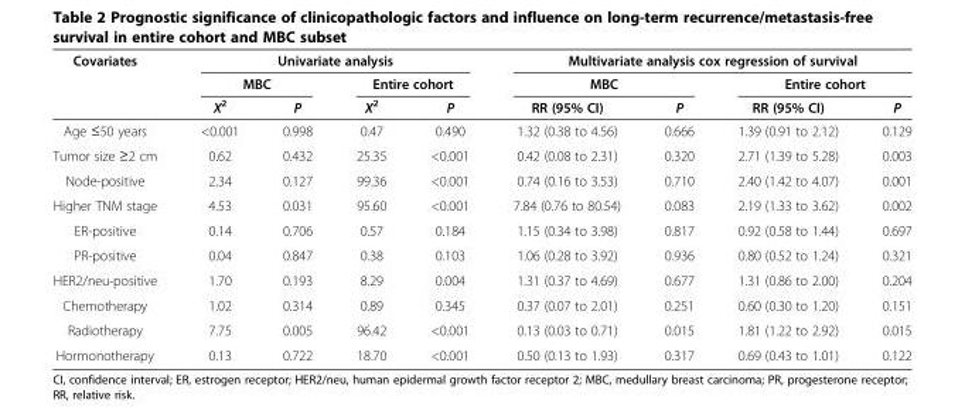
<table><thead><tr><td rowspan="3">Covariates</td><td colspan="4">Univariate analysis</td><td colspan="4">Multivariate analysis cox regression of survival</td></tr><tr><td colspan="2">MBC</td><td colspan="2">Entire cohort</td><td colspan="2">MBC</td><td colspan="2">Entire cohort</td></tr><tr><td>Χ<sup>2</sup></td><td>P</td><td>Χ<sup>2</sup></td><td>P</td><td>RR (95% CI)</td><td>P</td><td>RR (95% CI)</td><td>P</td></tr></thead><tbody><tr><td>Age ≤50 years</td><td>&lt;0.001</td><td>0.998</td><td>0.47</td><td>0.490</td><td>1.32 (0.38 to 4.56)</td><td>0.666</td><td>1.39 (0.91 to 2.12)</td><td>0.129</td></tr><tr><td>Tumor size ≥2 cm</td><td>0.62</td><td>0.432</td><td>25.35</td><td>&lt;0.001</td><td>0.42 (0.08 to 2.31)</td><td>0.320</td><td>2.71 (1.39 to 5.28)</td><td>0.003</td></tr><tr><td>Node-positive</td><td>2.34</td><td>0.127</td><td>99.36</td><td>&lt;0.001</td><td>0.74 (0.16 to 3.53)</td><td>0.710</td><td>2.40 (1.42 to 4.07)</td><td>0.001</td></tr><tr><td>Higher TNM stage</td><td>4.53</td><td>0.031</td><td>95.60</td><td>&lt;0.001</td><td>7.84 (0.76 to 80.54)</td><td>0.083</td><td>2.19 (1.33 to 3.62)</td><td>0.002</td></tr><tr><td>ER-positive</td><td>0.14</td><td>0.706</td><td>0.57</td><td>0.184</td><td>1.15 (0.34 to 3.98)</td><td>0.817</td><td>0.92 (0.58 to 1.44)</td><td>0.697</td></tr><tr><td>PR-positive</td><td>0.04</td><td>0.847</td><td>0.38</td><td>0.103</td><td>1.06 (0.28 to 3.92)</td><td>0.936</td><td>0.80 (0.52 to 1.24)</td><td>0.321</td></tr><tr><td>HER2/neu-positive</td><td>1.70</td><td>0.193</td><td>8.29</td><td>0.004</td><td>1.31 (0.37 to 4.69)</td><td>0.677</td><td>1.31 (0.86 to 2.00)</td><td>0.204</td></tr><tr><td>Chemotherapy</td><td>1.02</td><td>0.314</td><td>0.89</td><td>0.345</td><td>0.37 (0.07 to 2.01)</td><td>0.251</td><td>0.60 (0.30 to 1.20)</td><td>0.151</td></tr><tr><td>Radiotherapy</td><td>7.75</td><td>0.005</td><td>96.42</td><td>&lt;0.001</td><td>0.13 (0.03 to 0.71)</td><td>0.015</td><td>1.81 (1.22 to 2.92)</td><td>0.015</td></tr><tr><td>Hormonotherapy</td><td>0.13</td><td>0.722</td><td>18.70</td><td>&lt;0.001</td><td>0.50 (0.13 to 1.93)</td><td>0.317</td><td>0.69 (0.43 to 1.01)</td><td>0.122</td></tr></tbody></table>